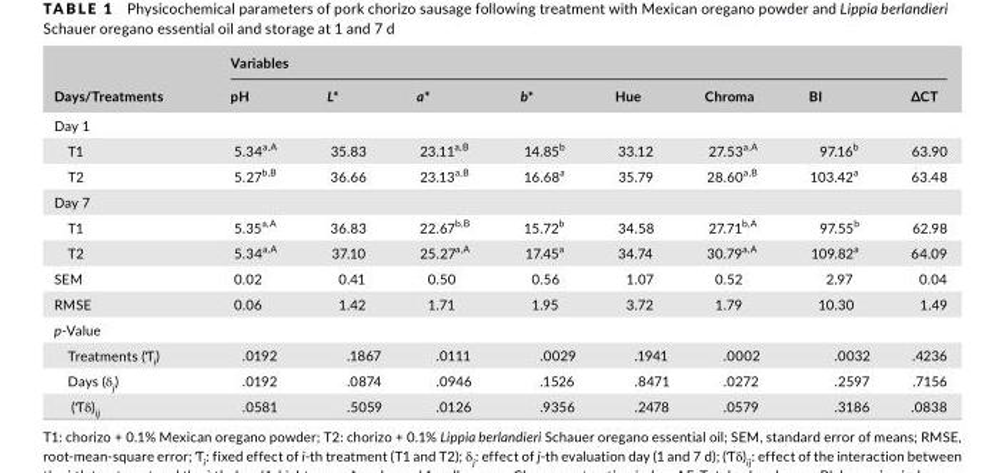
<table><thead><tr><td rowspan="2">Days/Treatments</td><td colspan="8">Variables</td></tr><tr><td>pH</td><td>L*</td><td>a*</td><td>b*</td><td>Hue</td><td>Chroma</td><td>BI</td><td>∆CT</td></tr></thead><tbody><tr><td colspan="9">Day 1</td></tr><tr><td>T1</td><td>5.34<sup>a,A</sup></td><td>35.83</td><td>23.11<sup>a,B</sup></td><td>14.85<sup>b</sup></td><td>33.12</td><td>27.53<sup>a,A</sup></td><td>97.16<sup>b</sup></td><td>63.90</td></tr><tr><td>T2</td><td>5.27<sup>b,B</sup></td><td>36.66</td><td>23.13<sup>a,B</sup></td><td>16.68<sup>a</sup></td><td>35.79</td><td>28.60<sup>a,B</sup></td><td>103.42<sup>a</sup></td><td>63.48</td></tr><tr><td colspan="9">Day 7</td></tr><tr><td>T1</td><td>5.35<sup>a,A</sup></td><td>36.83</td><td>22.67<sup>b,B</sup></td><td>15.72<sup>b</sup></td><td>34.58</td><td>27.71<sup>b,A</sup></td><td>97.55<sup>b</sup></td><td>62.98</td></tr><tr><td>T2</td><td>5.34<sup>a,A</sup></td><td>37.10</td><td>25.27<sup>a,A</sup></td><td>17.45<sup>a</sup></td><td>34.74</td><td>30.79<sup>a,A</sup></td><td>109.82<sup>a</sup></td><td>64.09</td></tr><tr><td>SEM</td><td>0.02</td><td>0.41</td><td>0.50</td><td>0.56</td><td>1.07</td><td>0.52</td><td>2.97</td><td>0.04</td></tr><tr><td>RMSE</td><td>0.06</td><td>1.42</td><td>1.71</td><td>1.95</td><td>3.72</td><td>1.79</td><td>10.30</td><td>1.49</td></tr><tr><td colspan="9">p- Value</td></tr><tr><td>Treatments (Ƭ<sub>i</sub>)</td><td>.0192</td><td>.1867</td><td>.0111</td><td>.0029</td><td>.1941</td><td>.0002</td><td>.0032</td><td>.4236</td></tr><tr><td>Days (δ<sub>j</sub>)</td><td>.0192</td><td>.0874</td><td>.0946</td><td>.1526</td><td>.8471</td><td>.0272</td><td>.2597</td><td>.7156</td></tr><tr><td>(Ƭδ)<sub>ij</sub></td><td>.0581</td><td>.5059</td><td>.0126</td><td>.9356</td><td>.2478</td><td>.0579</td><td>.3186</td><td>.0838</td></tr></tbody></table>